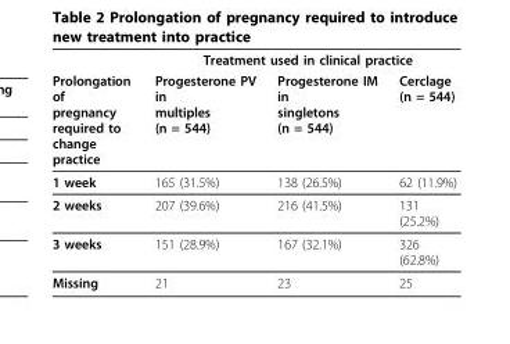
<table><thead><tr><td rowspan="2">Prolongation of pregnancy required to change practice</td><td colspan="3">Treatment used in clinical practice</td></tr><tr><td>Progesterone PV in multiples (n = 544)</td><td>Progesterone IM in singletons (n = 544)</td><td>Cerclage (n = 544)</td></tr></thead><tbody><tr><td>1 week</td><td>165 (31.5%)</td><td>138 (26.5%)</td><td>62 (11.9%)</td></tr><tr><td>2 weeks</td><td>207 (39.6%)</td><td>216 (41.5%)</td><td>131 (25.2%)</td></tr><tr><td>3 weeks</td><td>151 (28.9%)</td><td>167 (32.1%)</td><td>326 (62.8%)</td></tr><tr><td>Missing</td><td>21</td><td>23</td><td>25</td></tr></tbody></table>